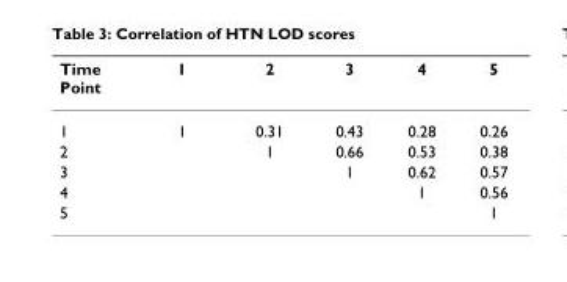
<table><thead><tr><td>Time Point</td><td>1</td><td>2</td><td>3</td><td>4</td><td>5</td></tr></thead><tbody><tr><td>1</td><td>1</td><td>0.31</td><td>0.43</td><td>0.28</td><td>0.26</td></tr><tr><td>2</td><td></td><td>1</td><td>0.66</td><td>0.53</td><td>0.38</td></tr><tr><td>3</td><td></td><td></td><td>1</td><td>0.62</td><td>0.57</td></tr><tr><td>4</td><td></td><td></td><td></td><td>1</td><td>0.56</td></tr><tr><td>5</td><td></td><td></td><td></td><td></td><td>1</td></tr></tbody></table>